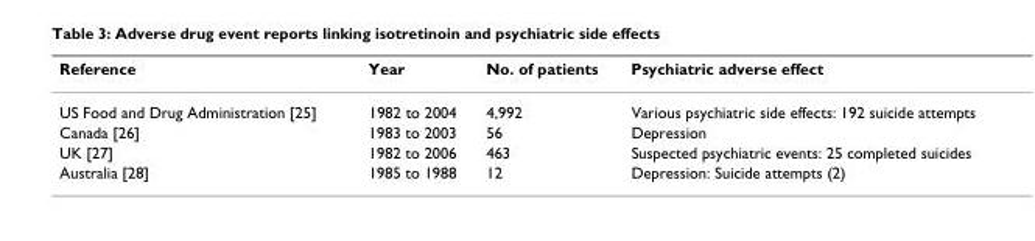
<table><thead><tr><td>Reference</td><td>Year</td><td>No. of patients</td><td>Psychiatric adverse effect</td></tr></thead><tbody><tr><td>US Food and Drug Administration [25]</td><td>1982 to 2004</td><td>4,992</td><td>Various psychiatric side effects: 192 suicide attempts</td></tr><tr><td>Canada [26]</td><td>1983 to 2003</td><td>56</td><td>Depression</td></tr><tr><td>UK [27]</td><td>1982 to 2006</td><td>463</td><td>Suspected psychiatric events: 25 completed suicides</td></tr><tr><td>Australia [28]</td><td>1985 to 1988</td><td>12</td><td>Depression: Suicide attempts (2)</td></tr></tbody></table>